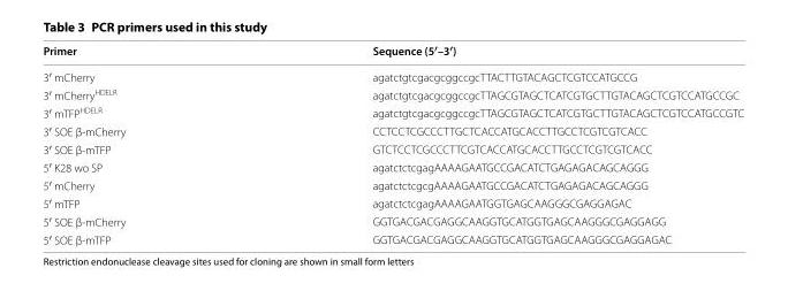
<table><thead><tr><td>Primer</td><td>Sequence (5′–3′)</td></tr></thead><tbody><tr><td>3′ mCherry</td><td>agatctgtcgacgcggccgcTTACTTGTACAGCTCGTCCATGCCG</td></tr><tr><td>3′ mCherry<sup>HDELR</sup></td><td>agatctgtcgacgcggccgcTTAGCGTAGCTCATCGTGCTTGTACAGCTCGTCCATGCCGC</td></tr><tr><td>3′ mTFP<sup>HDELR</sup></td><td>agatctgtcgacgcggccgcTTAGCGTAGCTCATCGTGCTTGTACAGCTCGTCCATGCCGTC</td></tr><tr><td>3′ SOE β-mCherry</td><td>CCTCCTCGCCCTTGCTCACCATGCACCTTGCCTCGTCGTCACC</td></tr><tr><td>3′ SOE β-mTFP</td><td>GTCTCCTCGCCCTTCGTCACCATGCACCTTGCCTCGTCGTCACC</td></tr><tr><td>5′ K28 wo SP</td><td>agatctctcgagAAAAGAATGCCGACATCTGAGAGACAGCAGGG</td></tr><tr><td>5′ mCherry</td><td>agatctctcgcgAAAAGAATGCCGACATCTGAGAGACAGCAGGG</td></tr><tr><td>5′ mTFP</td><td>agatctctcgagAAAAGAATGGTGAGCAAGGGCGAGGAGAC</td></tr><tr><td>5′ SOE β-mCherry</td><td>GGTGACGACGAGGCAAGGTGCATGGTGAGCAAGGGCGAGGAGG</td></tr><tr><td>5′ SOE β-mTFP</td><td>GGTGACGACGAGGCAAGGTGCATGGTGAGCAAGGGCGAGGAGAC</td></tr></tbody></table>